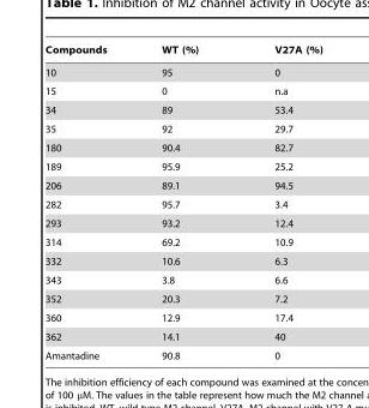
<table><thead><tr><td>Compounds</td><td>WT (%)</td><td>V27A (%)</td></tr></thead><tbody><tr><td>10</td><td>95</td><td>0</td></tr><tr><td>15</td><td>0</td><td>n.a</td></tr><tr><td>34</td><td>89</td><td>53.4</td></tr><tr><td>35</td><td>92</td><td>29.7</td></tr><tr><td>180</td><td>90.4</td><td>82.7</td></tr><tr><td>189</td><td>95.9</td><td>25.2</td></tr><tr><td>206</td><td>89.1</td><td>94.5</td></tr><tr><td>282</td><td>95.7</td><td>3.4</td></tr><tr><td>293</td><td>93.2</td><td>12.4</td></tr><tr><td>314</td><td>69.2</td><td>10.9</td></tr><tr><td>332</td><td>10.6</td><td>6.3</td></tr><tr><td>343</td><td>3.8</td><td>6.6</td></tr><tr><td>352</td><td>20.3</td><td>7.2</td></tr><tr><td>360</td><td>12.9</td><td>17.4</td></tr><tr><td>362</td><td>14.1</td><td>40</td></tr><tr><td>Amantadine</td><td>90.8</td><td>0</td></tr></tbody></table>